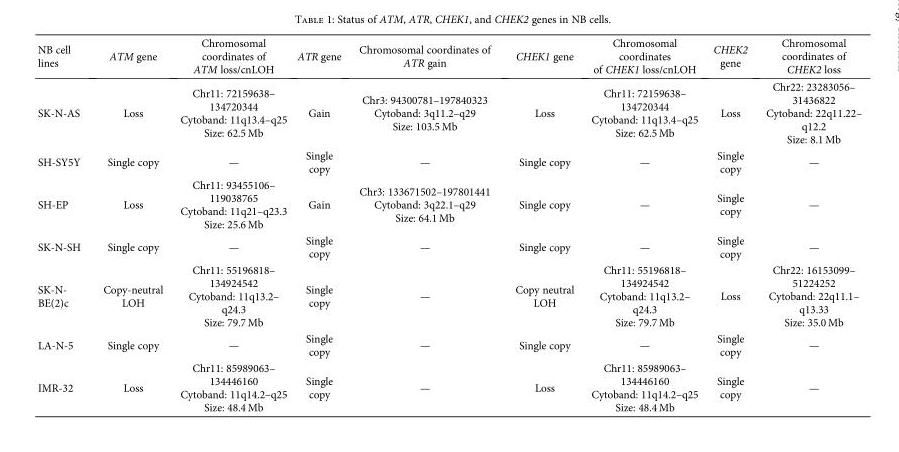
<table><thead><tr><td>NB cell lines</td><td>ATM gene</td><td>Chromosomal coordinates of ATM loss/cnLOH</td><td>ATR gene</td><td>Chromosomal coordinates of ATR gain</td><td>CHEK1 gene</td><td>Chromosomal coordinates of CHEK1 loss/cnLOH</td><td>CHEK2 gene</td><td>Chromosomal coordinates of CHEK2 loss</td></tr></thead><tbody><tr><td>SK-N-AS</td><td>Loss</td><td>Chr11: 72159638– 134720344 Cytoband: 11q13.4–q25 Size: 62.5 Mb</td><td>Gain</td><td>Chr3: 94300781–197840323 Cytoband: 3q11.2–q29 Size: 103.5 Mb</td><td>Loss</td><td>Chr11: 72159638– 134720344 Cytoband: 11q13.4–q25 Size: 62.5 Mb</td><td>Loss</td><td>Chr22: 23283056– 31436822 Cytoband: 22q11.22– q12.2 Size: 8.1 Mb</td></tr><tr><td>SH-SY5Y</td><td>Single copy</td><td>—</td><td>Single copy</td><td>—</td><td>Single copy</td><td>—</td><td>Single copy</td><td>—</td></tr><tr><td>SH-EP</td><td>Loss</td><td>Chr11: 93455106– 119038765 Cytoband: 11q21–q23.3 Size: 25.6 Mb</td><td>Gain</td><td>Chr3: 133671502–197801441 Cytoband: 3q22.1–q29 Size: 64.1 Mb</td><td>Single copy</td><td>—</td><td>Single copy</td><td>—</td></tr><tr><td>SK-N-SH</td><td>Single copy</td><td>—</td><td>Single copy</td><td>—</td><td>Single copy</td><td>—</td><td>Single copy</td><td>—</td></tr><tr><td>SK-N- BE(2)c</td><td>Copy-neutral LOH</td><td>Chr11: 55196818– 134924542 Cytoband: 11q13.2– q24.3 Size: 79.7 Mb</td><td>Single copy</td><td>—</td><td>Copy neutral LOH</td><td>Chr11: 55196818– 134924542 Cytoband: 11q13.2– q24.3 Size: 79.7 Mb</td><td>Loss</td><td>Chr22: 16153099– 51224252 Cytoband: 22q11.1– q13.33 Size: 35.0 Mb</td></tr><tr><td>LA-N-5</td><td>Single copy</td><td>—</td><td>Single copy</td><td>—</td><td>Single copy</td><td>—</td><td>Single copy</td><td>—</td></tr><tr><td>IMR-32</td><td>Loss</td><td>Chr11: 85989063– 134446160 Cytoband: 11q14.2–q25 Size: 48.4 Mb</td><td>Single copy</td><td>—</td><td>Loss</td><td>Chr11: 85989063– 134446160 Cytoband: 11q14.2–q25 Size: 48.4 Mb</td><td>Single copy</td><td>—</td></tr></tbody></table>